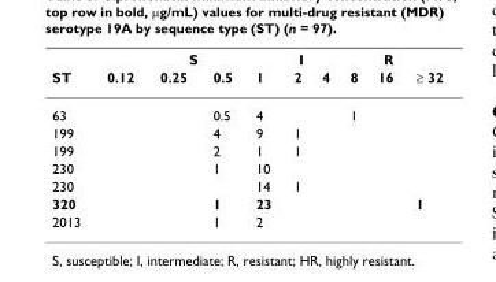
<table><thead><tr><td rowspan="2">ST</td><td colspan="4">S</td><td rowspan="2">I 2</td><td colspan="4">R</td></tr><tr><td>0.12</td><td>0.25</td><td>0.5</td><td>1</td><td>4</td><td>8</td><td>16</td><td>≥ 32</td></tr></thead><tbody><tr><td>63</td><td></td><td></td><td>0.5</td><td>4</td><td></td><td></td><td>1</td><td></td><td></td></tr><tr><td>199</td><td></td><td></td><td>4</td><td>9</td><td>1</td><td></td><td></td><td></td><td></td></tr><tr><td>199</td><td></td><td></td><td>2</td><td>1</td><td>1</td><td></td><td></td><td></td><td></td></tr><tr><td>230</td><td></td><td></td><td>1</td><td>10</td><td></td><td></td><td></td><td></td><td></td></tr><tr><td>230</td><td></td><td></td><td></td><td>14</td><td>1</td><td></td><td></td><td></td><td></td></tr><tr><td>320</td><td></td><td></td><td>1</td><td>23</td><td></td><td></td><td></td><td></td><td>1</td></tr><tr><td>2013</td><td></td><td></td><td>1</td><td>2</td><td></td><td></td><td></td><td></td><td></td></tr></tbody></table>